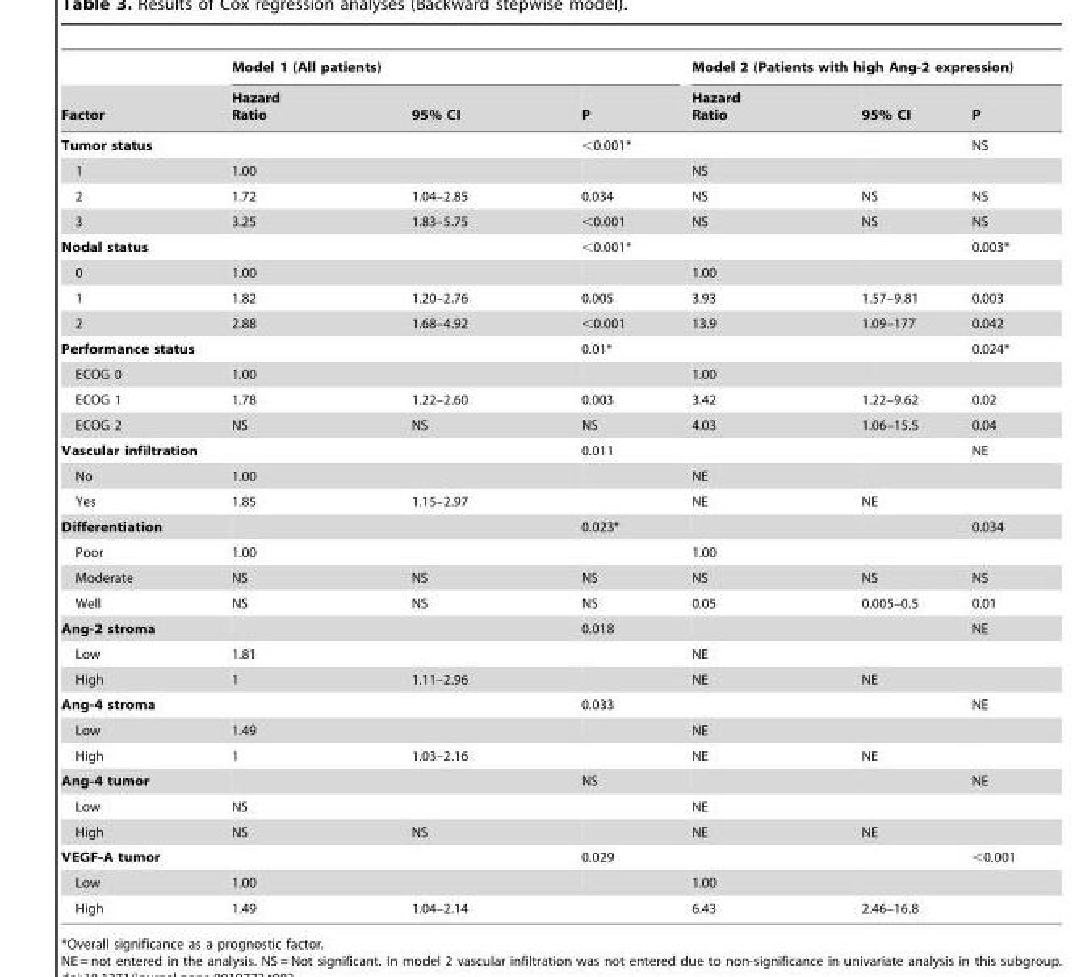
<table><thead><tr><td rowspan="2">Factor</td><td colspan="3">Model 1 (All patients)</td><td colspan="3">Model 2 (Patients with high Ang-2 expression)</td></tr><tr><td>Hazard Ratio</td><td>95% CI</td><td>P</td><td>Hazard Ratio</td><td>95% CI</td><td>P</td></tr></thead><tbody><tr><td>Tumor status</td><td></td><td></td><td>&lt;0.001*</td><td></td><td></td><td>NS</td></tr><tr><td>1</td><td>1.00</td><td></td><td></td><td>NS</td><td></td><td></td></tr><tr><td>2</td><td>1.72</td><td>1.04–2.85</td><td>0.034</td><td>NS</td><td>NS</td><td>NS</td></tr><tr><td>3</td><td>3.25</td><td>1.83–5.75</td><td>&lt;0.001</td><td>NS</td><td>NS</td><td>NS</td></tr><tr><td>Nodal status</td><td></td><td></td><td>&lt;0.001*</td><td></td><td></td><td>0.003*</td></tr><tr><td>0</td><td>1.00</td><td></td><td></td><td>1.00</td><td></td><td></td></tr><tr><td>1</td><td>1.82</td><td>1.20–2.76</td><td>0.005</td><td>3.93</td><td>1.57–9.81</td><td>0.003</td></tr><tr><td>2</td><td>2.88</td><td>1.68–4.92</td><td>&lt;0.001</td><td>13.9</td><td>1.09–177</td><td>0.042</td></tr><tr><td>Performance status</td><td></td><td></td><td>0.01*</td><td></td><td></td><td>0.024*</td></tr><tr><td>ECOG 0</td><td>1.00</td><td></td><td></td><td>1.00</td><td></td><td></td></tr><tr><td>ECOG 1</td><td>1.78</td><td>1.22–2.60</td><td>0.003</td><td>3.42</td><td>1.22–9.62</td><td>0.02</td></tr><tr><td>ECOG 2</td><td>NS</td><td>NS</td><td>NS</td><td>4.03</td><td>1.06–15.5</td><td>0.04</td></tr><tr><td>Vascular infiltration</td><td></td><td></td><td>0.011</td><td></td><td></td><td>NE</td></tr><tr><td>No</td><td>1.00</td><td></td><td></td><td>NE</td><td></td><td></td></tr><tr><td>Yes</td><td>1.85</td><td>1.15–2.97</td><td></td><td>NE</td><td>NE</td><td></td></tr><tr><td>Differentiation</td><td></td><td></td><td>0.023*</td><td></td><td></td><td>0.034</td></tr><tr><td>Poor</td><td>1.00</td><td></td><td></td><td>1.00</td><td></td><td></td></tr><tr><td>Moderate</td><td>NS</td><td>NS</td><td>NS</td><td>NS</td><td>NS</td><td>NS</td></tr><tr><td>Well</td><td>NS</td><td>NS</td><td>NS</td><td>0.05</td><td>0.005–0.5</td><td>0.01</td></tr><tr><td>Ang-2 stroma</td><td></td><td></td><td>0.018</td><td></td><td></td><td>NE</td></tr><tr><td>Low</td><td>1.81</td><td></td><td></td><td>NE</td><td></td><td></td></tr><tr><td>High</td><td>1</td><td>1.11–2.96</td><td></td><td>NE</td><td>NE</td><td></td></tr><tr><td>Ang-4 stroma</td><td></td><td></td><td>0.033</td><td></td><td></td><td>NE</td></tr><tr><td>Low</td><td>1.49</td><td></td><td></td><td>NE</td><td></td><td></td></tr><tr><td>High</td><td>1</td><td>1.03–2.16</td><td></td><td>NE</td><td>NE</td><td></td></tr><tr><td>Ang-4 tumor</td><td></td><td></td><td>NS</td><td></td><td></td><td>NE</td></tr><tr><td>Low</td><td>NS</td><td></td><td></td><td>NE</td><td></td><td></td></tr><tr><td>High</td><td>NS</td><td>NS</td><td></td><td>NE</td><td>NE</td><td></td></tr><tr><td>VEGF-A tumor</td><td></td><td></td><td>0.029</td><td></td><td></td><td>&lt;0.001</td></tr><tr><td>Low</td><td>1.00</td><td></td><td></td><td>1.00</td><td></td><td></td></tr><tr><td>High</td><td>1.49</td><td>1.04–2.14</td><td></td><td>6.43</td><td>2.46–16.8</td><td></td></tr></tbody></table>